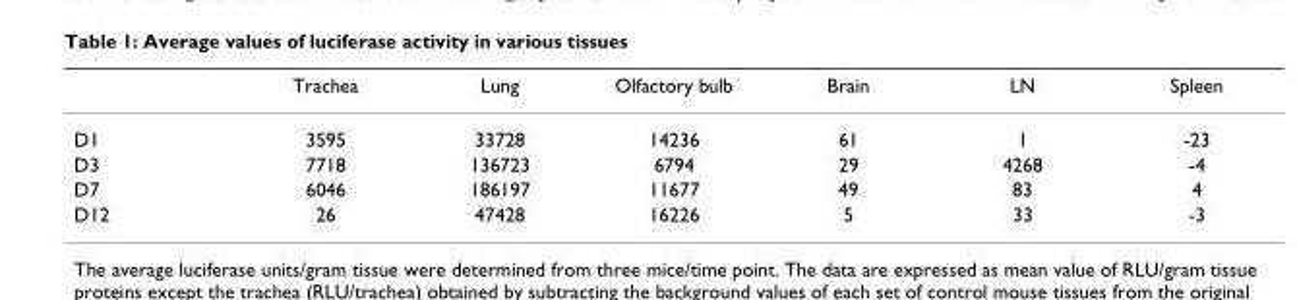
<table><thead><tr><td></td><td>Trachea</td><td>Lung</td><td>Olfactory bulb</td><td>Brain</td><td>LN</td><td>Spleen</td></tr></thead><tbody><tr><td>D1</td><td>3595</td><td>33728</td><td>14236</td><td>61</td><td>1</td><td>-23</td></tr><tr><td>D3</td><td>7718</td><td>136723</td><td>6794</td><td>29</td><td>4268</td><td>-4</td></tr><tr><td>D7</td><td>6046</td><td>186197</td><td>11677</td><td>49</td><td>83</td><td>4</td></tr><tr><td>D12</td><td>26</td><td>47428</td><td>16226</td><td>5</td><td>33</td><td>-3</td></tr></tbody></table>